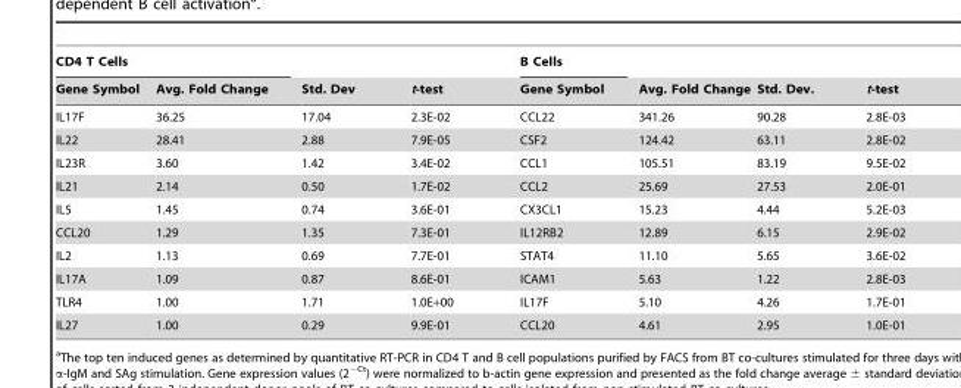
<table><thead><tr><td colspan="2">CD4 T Cells</td><td rowspan="2">Std. Dev</td><td rowspan="2">t-test</td><td rowspan="2">B Cells Gene Symbol</td><td rowspan="2">Avg. Fold Change</td><td rowspan="2">Std. Dev.</td><td rowspan="2">t-test</td></tr><tr><td>Gene Symbol</td><td>Avg. Fold Change</td></tr></thead><tbody><tr><td>IL17F</td><td>36.25</td><td>17.04</td><td>2.3E-02</td><td>CCL22</td><td>341.26</td><td>90.28</td><td>2.8E-03</td></tr><tr><td>IL22</td><td>28.41</td><td>2.88</td><td>7.9E-05</td><td>CSF2</td><td>124.42</td><td>63.11</td><td>2.8E-02</td></tr><tr><td>IL23R</td><td>3.60</td><td>1.42</td><td>3.4E-02</td><td>CCL1</td><td>105.51</td><td>83.19</td><td>9.5E-02</td></tr><tr><td>IL21</td><td>2.14</td><td>0.50</td><td>1.7E-02</td><td>CCL2</td><td>25.69</td><td>27.53</td><td>2.0E-01</td></tr><tr><td>IL5</td><td>1.45</td><td>0.74</td><td>3.6E-01</td><td>CX3CL1</td><td>15.23</td><td>4.44</td><td>5.2E-03</td></tr><tr><td>CCL20</td><td>1.29</td><td>1.35</td><td>7.3E-01</td><td>IL12RB2</td><td>12.89</td><td>6.15</td><td>2.9E-02</td></tr><tr><td>IL2</td><td>1.13</td><td>0.69</td><td>7.7E-01</td><td>STAT4</td><td>11.10</td><td>5.65</td><td>3.6E-02</td></tr><tr><td>IL17A</td><td>1.09</td><td>0.87</td><td>8.6E-01</td><td>ICAM1</td><td>5.63</td><td>1.22</td><td>2.8E-03</td></tr><tr><td>TLR4</td><td>1.00</td><td>1.71</td><td>1.0E+00</td><td>IL17F</td><td>5.10</td><td>4.26</td><td>1.7E-01</td></tr><tr><td>IL27</td><td>1.00</td><td>0.29</td><td>9.9E-01</td><td>CCL20</td><td>4.61</td><td>2.95</td><td>1.0E-01</td></tr></tbody></table>